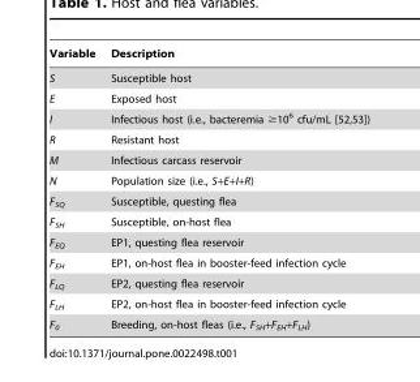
<table><thead><tr><td>Variable</td><td>Description</td></tr></thead><tbody><tr><td>S</td><td>Susceptible host</td></tr><tr><td>E</td><td>Exposed host</td></tr><tr><td>I</td><td>Infectious host (i.e., bacteremia $106 cfu/mL [52,53])</td></tr><tr><td>R</td><td>Resistant host</td></tr><tr><td>M</td><td>Infectious carcass reservoir</td></tr><tr><td>N</td><td>Population size (i.e., S+E+I+R)</td></tr><tr><td>F<sub>SQ</sub></td><td>Susceptible, questing flea</td></tr><tr><td>F<sub>SH</sub></td><td>Susceptible, on-host flea</td></tr><tr><td>F<sub>EQ</sub></td><td>EP1, questing flea reservoir</td></tr><tr><td>F<sub>EH</sub></td><td>EP1, on-host flea in booster-feed infection cycle</td></tr><tr><td>F<sub>LQ</sub></td><td>EP2, questing flea reservoir</td></tr><tr><td>F<sub>LH</sub></td><td>EP2, on-host flea in booster-feed infection cycle</td></tr><tr><td>F<sub>0</sub></td><td>Breeding, on-host fleas (i.e., F<sub>SH</sub>+F<sub>EH</sub>+F<sub>LH</sub>)</td></tr></tbody></table>